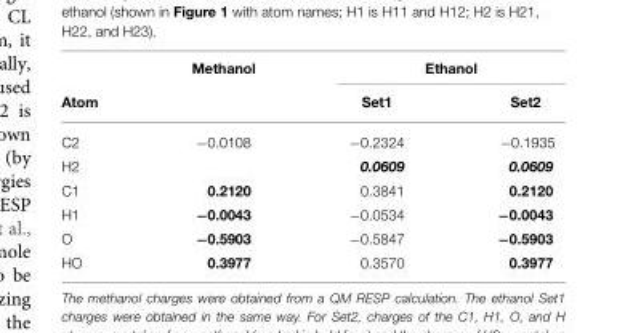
<table><thead><tr><td rowspan="2">Atom</td><td rowspan="2">Methanol</td><td colspan="2">Ethanol</td></tr><tr><td>Set1</td><td>Set2</td></tr></thead><tbody><tr><td>C2</td><td>−0.0108</td><td>−0.2324</td><td>−0.1935</td></tr><tr><td>H2</td><td></td><td>0.0609</td><td>0.0609</td></tr><tr><td>C1</td><td>0.2120</td><td>0.3841</td><td>0.2120</td></tr><tr><td>H1</td><td>−0.0043</td><td>−0.0534</td><td>−0.0043</td></tr><tr><td>O</td><td>−0.5903</td><td>−0.5847</td><td>−0.5903</td></tr><tr><td>HO</td><td>0.3977</td><td>0.3570</td><td>0.3977</td></tr></tbody></table>